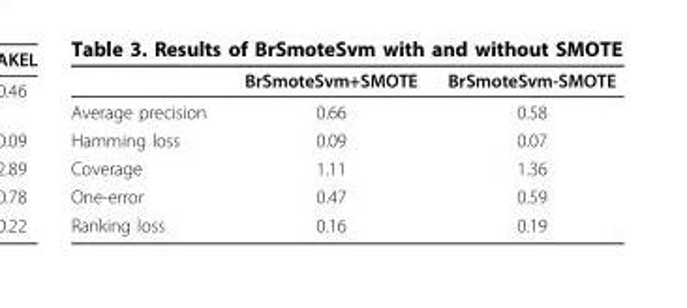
<table><thead><tr><td></td><td>BrSmoteSvm+SMOTE</td><td>BrSmoteSvm-SMOTE</td></tr></thead><tbody><tr><td>Average precision</td><td>0.66</td><td>0.58</td></tr><tr><td>Hamming loss</td><td>0.09</td><td>0.07</td></tr><tr><td>Coverage</td><td>1.11</td><td>1.36</td></tr><tr><td>One-error</td><td>0.47</td><td>0.59</td></tr><tr><td>Ranking loss</td><td>0.16</td><td>0.19</td></tr></tbody></table>